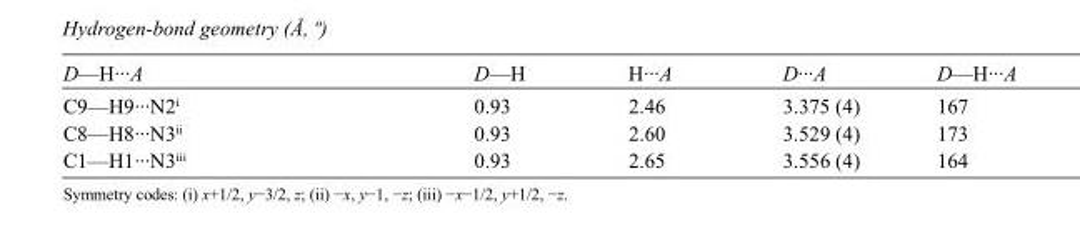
<table><tbody><tr><td>D—H···A</td><td>D—H</td><td>H···A</td><td>D···A</td><td>D—H···A</td></tr><tr><td>C9—H9···N2<sup>i</sup></td><td>0.93</td><td>2.46</td><td>3.375 (4)</td><td>167</td></tr><tr><td>C8—H8···N3<sup>ii</sup></td><td>0.93</td><td>2.60</td><td>3.529 (4)</td><td>173</td></tr><tr><td>C1—H1···N3<sup>iii</sup></td><td>0.93</td><td>2.65</td><td>3.556 (4)</td><td>164</td></tr></tbody></table>